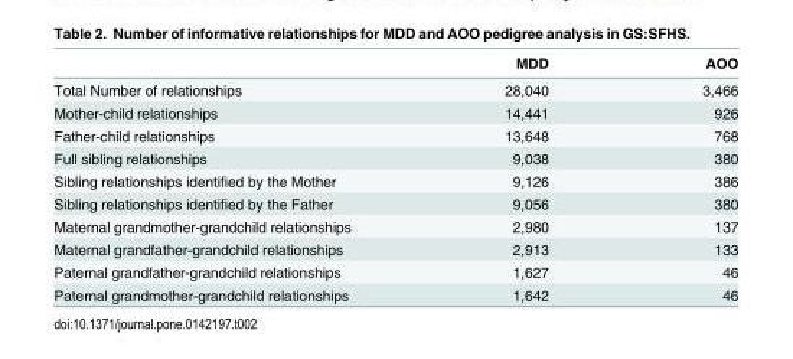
<table><thead><tr><td></td><td>MDD</td><td>AOO</td></tr></thead><tbody><tr><td>Total Number of relationships</td><td>28,040</td><td>3,466</td></tr><tr><td>Mother-child relationships</td><td>14,441</td><td>926</td></tr><tr><td>Father-child relationships</td><td>13,648</td><td>768</td></tr><tr><td>Full sibling relationships</td><td>9,038</td><td>380</td></tr><tr><td>Sibling relationships identified by the Mother</td><td>9,126</td><td>386</td></tr><tr><td>Sibling relationships identified by the Father</td><td>9,056</td><td>380</td></tr><tr><td>Maternal grandmother-grandchild relationships</td><td>2,980</td><td>137</td></tr><tr><td>Maternal grandfather-grandchild relationships</td><td>2,913</td><td>133</td></tr><tr><td>Paternal grandfather-grandchild relationships</td><td>1,627</td><td>46</td></tr><tr><td>Paternal grandmother-grandchild relationships</td><td>1,642</td><td>46</td></tr></tbody></table>